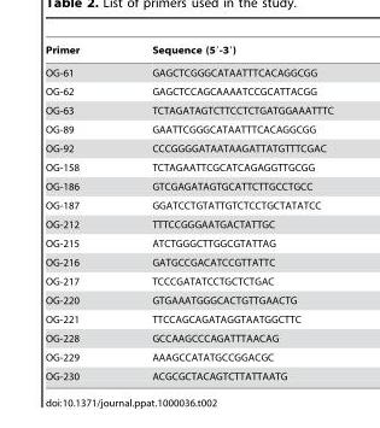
<table><thead><tr><td>Primer</td><td>Sequence (5′-3′)</td></tr></thead><tbody><tr><td>OG-61</td><td>GAGCTCGGGCATAATTTCACAGGCGG</td></tr><tr><td>OG-62</td><td>GAGCTCCAGCAAAATCCGCATTACGG</td></tr><tr><td>OG-63</td><td>TCTAGATAGTCTTCCTCTGATGGAAATTTC</td></tr><tr><td>OG-89</td><td>GAATTCGGGCATAATTTCACAGGCGG</td></tr><tr><td>OG-92</td><td>CCCGGGGATAATAAGATTATGTTTCGAC</td></tr><tr><td>OG-158</td><td>TCTAGAATTCGCATCAGAGGTTGCGG</td></tr><tr><td>OG-186</td><td>GTCGAGATAGTGCATTCTTGCCTGCC</td></tr><tr><td>OG-187</td><td>GGATCCTGTATTGTCTCCTGCTATATCC</td></tr><tr><td>OG-212</td><td>TTTCCGGGAATGACTATTGC</td></tr><tr><td>OG-215</td><td>ATCTGGGCTTGGCGTATTAG</td></tr><tr><td>OG-216</td><td>GATGCCGACATCCGTTATTC</td></tr><tr><td>OG-217</td><td>TCCCGATATCCTGCTCTGAC</td></tr><tr><td>OG-220</td><td>GTGAAATGGGCACTGTTGAACTG</td></tr><tr><td>OG-221</td><td>TTCCAGCAGATAGGTAATGGCTTC</td></tr><tr><td>OG-228</td><td>GCCAAGCCCAGATTTAACAG</td></tr><tr><td>OG-229</td><td>AAAGCCATATGCCGGACGC</td></tr><tr><td>OG-230</td><td>ACGCGCTACAGTCTTATTAATG</td></tr></tbody></table>